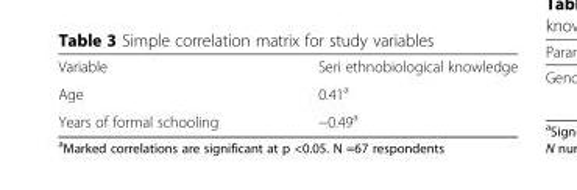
<table><tbody><tr><td>Variable</td><td>Seri ethnobiological knowledge</td></tr><tr><td>Age</td><td>0.41<sup>a</sup></td></tr><tr><td>Years of formal schooling</td><td>−0.49<sup>a</sup></td></tr></tbody></table>